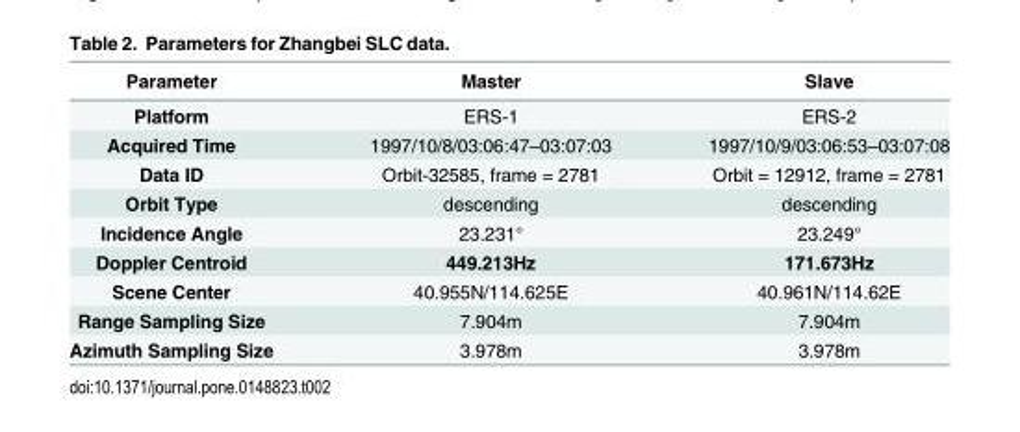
<table><thead><tr><td>Parameter</td><td>Master</td><td>Slave</td></tr></thead><tbody><tr><td>Platform</td><td>ERS-1</td><td>ERS-2</td></tr><tr><td>Acquired Time</td><td>1997/10/8/03:06:47–03:07:03</td><td>1997/10/9/03:06:53–03:07:08</td></tr><tr><td>Data ID</td><td>Orbit-32585, frame = 2781</td><td>Orbit = 12912, frame = 2781</td></tr><tr><td>Orbit Type</td><td>descending</td><td>descending</td></tr><tr><td>Incidence Angle</td><td>23.231°</td><td>23.249°</td></tr><tr><td>Doppler Centroid</td><td>449.213Hz</td><td>171.673Hz</td></tr><tr><td>Scene Center</td><td>40.955N/114.625E</td><td>40.961N/114.62E</td></tr><tr><td>Range Sampling Size</td><td>7.904m</td><td>7.904m</td></tr><tr><td>Azimuth Sampling Size</td><td>3.978m</td><td>3.978m</td></tr></tbody></table>